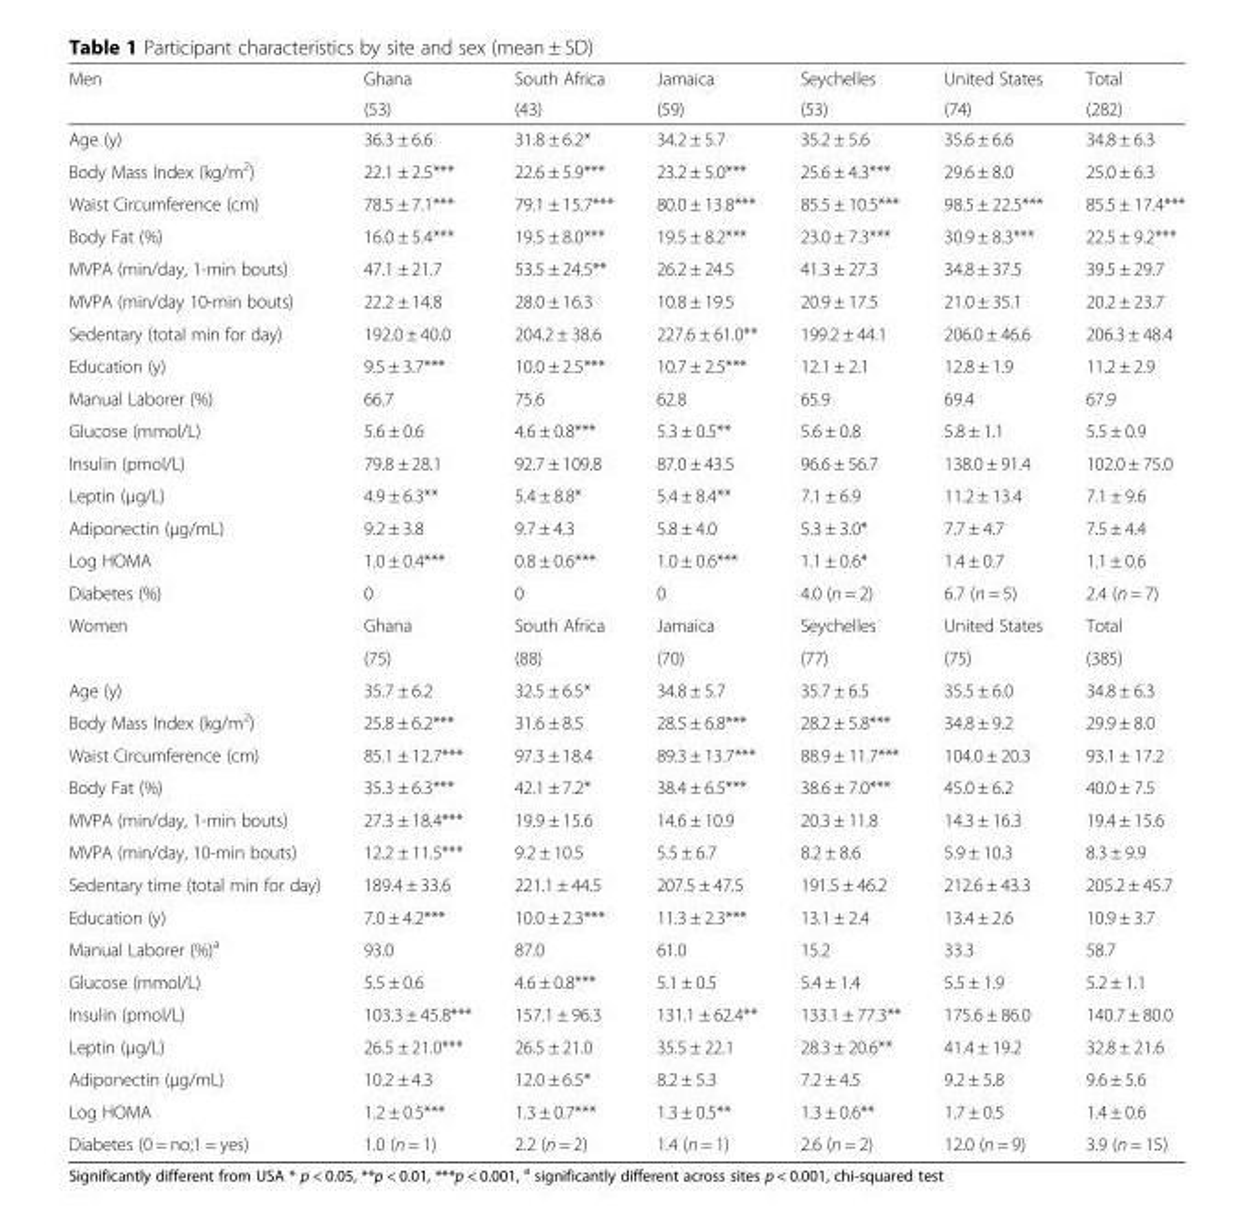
<table><thead><tr><td rowspan="2">Men</td><td rowspan="2">Ghana (53)</td><td rowspan="2">South Africa (43)</td><td rowspan="2">Jamaica (59)</td><td rowspan="2">Seychelles (53)</td><td rowspan="2">United States (74)</td><td rowspan="2">Total (282)</td></tr><tr></tr></thead><tbody><tr><td>Age (y)</td><td>36.3 ± 6.6</td><td>31.8 ± 6.2*</td><td>34.2 ± 5.7</td><td>35.2 ± 5.6</td><td>35.6 ± 6.6</td><td>34.8 ± 6.3</td></tr><tr><td>Body Mass Index (kg/m<sup>2</sup>)</td><td>22.1 ± 2.5***</td><td>22.6 ± 5.9***</td><td>23.2 ± 5.0***</td><td>25.6 ± 4.3***</td><td>29.6 ± 8.0</td><td>25.0 ± 6.3</td></tr><tr><td>Waist Circumference (cm)</td><td>78.5 ± 7.1***</td><td>79.1 ± 15.7***</td><td>80.0 ± 13.8***</td><td>85.5 ± 10.5***</td><td>98.5 ± 22.5***</td><td>85.5 ± 17.4***</td></tr><tr><td>Body Fat (%)</td><td>16.0 ± 5.4***</td><td>19.5 ± 8.0***</td><td>19.5 ± 8.2***</td><td>23.0 ± 7.3***</td><td>30.9 ± 8.3***</td><td>22.5 ± 9.2***</td></tr><tr><td>MVPA (min/day, 1-min bouts)</td><td>47.1 ± 21.7</td><td>53.5 ± 24.5**</td><td>26.2 ± 24.5</td><td>41.3 ± 27.3</td><td>34.8 ± 37.5</td><td>39.5 ± 29.7</td></tr><tr><td>MVPA (min/day 10-min bouts)</td><td>22.2 ± 14.8</td><td>28.0 ± 16.3</td><td>10.8 ± 19.5</td><td>20.9 ± 17.5</td><td>21.0 ± 35.1</td><td>20.2 ± 23.7</td></tr><tr><td>Sedentary (total min for day)</td><td>192.0 ± 40.0</td><td>204.2 ± 38.6</td><td>227.6 ± 61.0**</td><td>199.2 ± 44.1</td><td>206.0 ± 46.6</td><td>206.3 ± 48.4</td></tr><tr><td>Education (y)</td><td>9.5 ± 3.7***</td><td>10.0 ± 2.5***</td><td>10.7 ± 2.5***</td><td>12.1 ± 2.1</td><td>12.8 ± 1.9</td><td>11.2 ± 2.9</td></tr><tr><td>Manual Laborer (%)</td><td>66.7</td><td>75.6</td><td>62.8</td><td>65.9</td><td>69.4</td><td>67.9</td></tr><tr><td>Glucose (mmol/L)</td><td>5.6 ± 0.6</td><td>4.6 ± 0.8***</td><td>5.3 ± 0.5**</td><td>5.6 ± 0.8</td><td>5.8 ± 1.1</td><td>5.5 ± 0.9</td></tr><tr><td>Insulin (pmol/L)</td><td>79.8 ± 28.1</td><td>92.7 ± 109.8</td><td>87.0 ± 43.5</td><td>96.6 ± 56.7</td><td>138.0 ± 91.4</td><td>102.0 ± 75.0</td></tr><tr><td>Leptin (μg/L)</td><td>4.9 ± 6.3**</td><td>5.4 ± 8.8*</td><td>5.4 ± 8.4**</td><td>7.1 ± 6.9</td><td>11.2 ± 13.4</td><td>7.1 ± 9.6</td></tr><tr><td>Adiponectin (μg/mL)</td><td>9.2 ± 3.8</td><td>9.7 ± 4.3</td><td>5.8 ± 4.0</td><td>5.3 ± 3.0*</td><td>7.7 ± 4.7</td><td>7.5 ± 4.4</td></tr><tr><td>Log HOMA</td><td>1.0 ± 0.4***</td><td>0.8 ± 0.6***</td><td>1.0 ± 0.6***</td><td>1.1 ± 0.6*</td><td>1.4 ± 0.7</td><td>1.1 ± 0.6</td></tr><tr><td>Diabetes (%)</td><td>0</td><td>0</td><td>0</td><td>4.0 (n = 2)</td><td>6.7 (n = 5)</td><td>2.4 (n = 7)</td></tr><tr><td rowspan="2">Women</td><td>Ghana</td><td>South Africa</td><td>Jamaica</td><td>Seychelles</td><td>United States</td><td>Total</td></tr><tr><td>(75)</td><td>(88)</td><td>(70)</td><td>(77)</td><td>(75)</td><td>(385)</td></tr><tr><td>Age (y)</td><td>35.7 ± 6.2</td><td>32.5 ± 6.5*</td><td>34.8 ± 5.7</td><td>35.7 ± 6.5</td><td>35.5 ± 6.0</td><td>34.8 ± 6.3</td></tr><tr><td>Body Mass Index (kg/m<sup>2</sup>)</td><td>25.8 ± 6.2***</td><td>31.6 ± 8.5</td><td>28.5 ± 6.8***</td><td>28.2 ± 5.8***</td><td>34.8 ± 9.2</td><td>29.9 ± 8.0</td></tr><tr><td>Waist Circumference (cm)</td><td>85.1 ± 12.7***</td><td>97.3 ± 18.4</td><td>89.3 ± 13.7***</td><td>88.9 ± 11.7***</td><td>104.0 ± 20.3</td><td>93.1 ± 17.2</td></tr><tr><td>Body Fat (%)</td><td>35.3 ± 6.3***</td><td>42.1 ± 7.2*</td><td>38.4 ± 6.5***</td><td>38.6 ± 7.0***</td><td>45.0 ± 6.2</td><td>40.0 ± 7.5</td></tr><tr><td>MVPA (min/day, 1-min bouts)</td><td>27.3 ± 18.4***</td><td>19.9 ± 15.6</td><td>14.6 ± 10.9</td><td>20.3 ± 11.8</td><td>14.3 ± 16.3</td><td>19.4 ± 15.6</td></tr><tr><td>MVPA (min/day, 10-min bouts)</td><td>12.2 ± 11.5***</td><td>9.2 ± 10.5</td><td>5.5 ± 6.7</td><td>8.2 ± 8.6</td><td>5.9 ± 10.3</td><td>8.3 ± 9.9</td></tr><tr><td>Sedentary time (total min for day)</td><td>189.4 ± 33.6</td><td>221.1 ± 44.5</td><td>207.5 ± 47.5</td><td>191.5 ± 46.2</td><td>212.6 ± 43.3</td><td>205.2 ± 45.7</td></tr><tr><td>Education (y)</td><td>7.0 ± 4.2***</td><td>10.0 ± 2.3***</td><td>11.3 ± 2.3***</td><td>13.1 ± 2.4</td><td>13.4 ± 2.6</td><td>10.9 ± 3.7</td></tr><tr><td>Manual Laborer (%)<sup>a</sup></td><td>93.0</td><td>87.0</td><td>61.0</td><td>15.2</td><td>33.3</td><td>58.7</td></tr><tr><td>Glucose (mmol/L)</td><td>5.5 ± 0.6</td><td>4.6 ± 0.8***</td><td>5.1 ± 0.5</td><td>5.4 ± 1.4</td><td>5.5 ± 1.9</td><td>5.2 ± 1.1</td></tr><tr><td>Insulin (pmol/L)</td><td>103.3 ± 45.8***</td><td>157.1 ± 96.3</td><td>131.1 ± 62.4**</td><td>133.1 ± 77.3**</td><td>175.6 ± 86.0</td><td>140.7 ± 80.0</td></tr><tr><td>Leptin (μg/L)</td><td>26.5 ± 21.0***</td><td>26.5 ± 21.0</td><td>35.5 ± 22.1</td><td>28.3 ± 20.6**</td><td>41.4 ± 19.2</td><td>32.8 ± 21.6</td></tr><tr><td>Adiponectin (μg/mL)</td><td>10.2 ± 4.3</td><td>12.0 ± 6.5*</td><td>8.2 ± 5.3</td><td>7.2 ± 4.5</td><td>9.2 ± 5.8</td><td>9.6 ± 5.6</td></tr><tr><td>Log HOMA</td><td>1.2 ± 0.5***</td><td>1.3 ± 0.7***</td><td>1.3 ± 0.5**</td><td>1.3 ± 0.6**</td><td>1.7 ± 0.5</td><td>1.4 ± 0.6</td></tr><tr><td>Diabetes (0 = no;1 = yes)</td><td>1.0 (n = 1)</td><td>2.2 (n = 2)</td><td>1.4 (n = 1)</td><td>2.6 (n = 2)</td><td>12.0 (n = 9)</td><td>3.9 (n = 15)</td></tr></tbody></table>